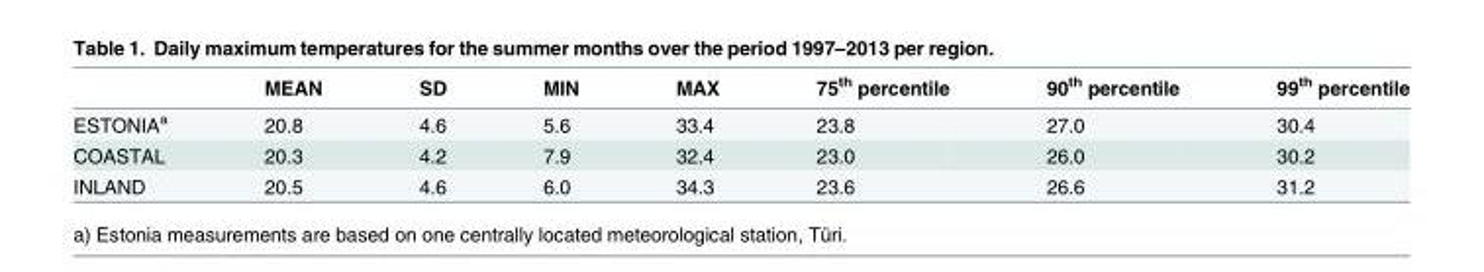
<table><thead><tr><td></td><td>MEAN</td><td>SD</td><td>MIN</td><td>MAX</td><td>75<sup>th</sup> percentile</td><td>90<sup>th</sup> percentile</td><td>99<sup>th</sup> percentile</td></tr></thead><tbody><tr><td>ESTONIA<sup>a</sup></td><td>20.8</td><td>4.6</td><td>5.6</td><td>33.4</td><td>23.8</td><td>27.0</td><td>30.4</td></tr><tr><td>COASTAL</td><td>20.3</td><td>4.2</td><td>7.9</td><td>32.4</td><td>23.0</td><td>26.0</td><td>30.2</td></tr><tr><td>INLAND</td><td>20.5</td><td>4.6</td><td>6.0</td><td>34.3</td><td>23.6</td><td>26.6</td><td>31.2</td></tr></tbody></table>